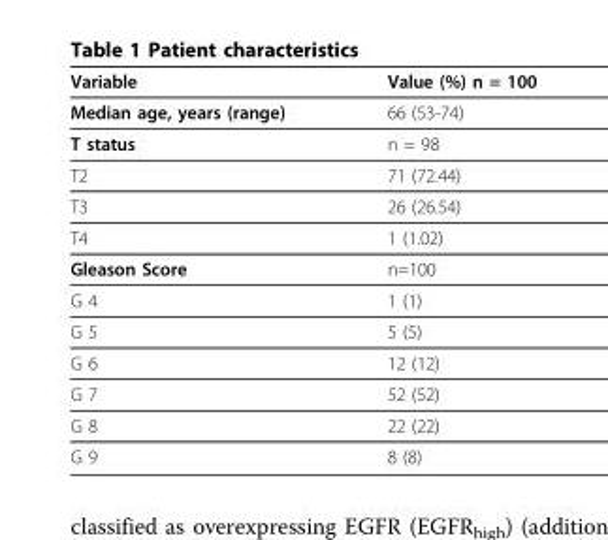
<table><thead><tr><td>Variable</td><td>Value (%) n = 100</td></tr></thead><tbody><tr><td>Median age, years (range)</td><td>66 (53-74)</td></tr><tr><td>T status</td><td>n = 98</td></tr><tr><td>T2</td><td>71 (72.44)</td></tr><tr><td>T3</td><td>26 (26.54)</td></tr><tr><td>T4</td><td>1 (1.02)</td></tr><tr><td>Gleason Score</td><td>n=100</td></tr><tr><td>G 4</td><td>1 (1)</td></tr><tr><td>G 5</td><td>5 (5)</td></tr><tr><td>G 6</td><td>12 (12)</td></tr><tr><td>G 7</td><td>52 (52)</td></tr><tr><td>G 8</td><td>22 (22)</td></tr><tr><td>G 9</td><td>8 (8)</td></tr></tbody></table>